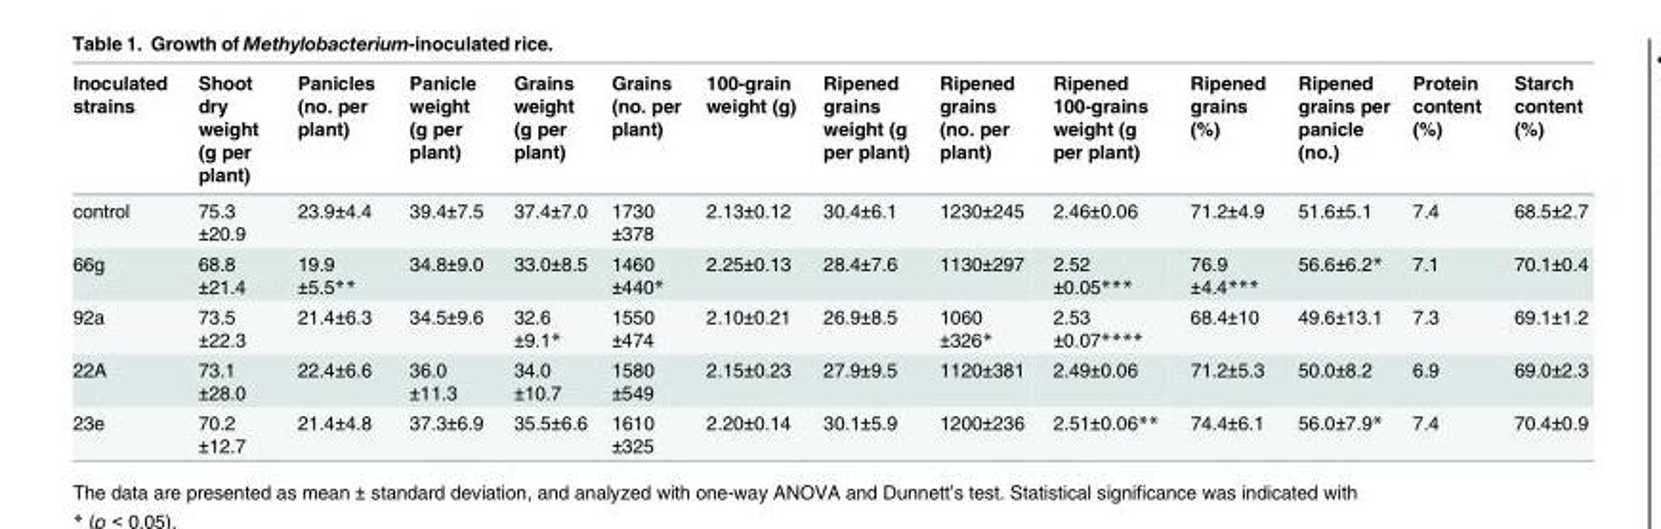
<table><thead><tr><td>Inoculated strains</td><td>Shoot dry weight (g per plant)</td><td>Panicles (no. per plant)</td><td>Panicle weight (g per plant)</td><td>Grains weight (g per plant)</td><td>Grains (no. per plant)</td><td>100-grain weight (g)</td><td>Ripened grains weight (g per plant)</td><td>Ripened grains (no. per plant)</td><td>Ripened 100-grains weight (g per plant)</td><td>Ripened grains (%)</td><td>Ripened grains per panicle (no.)</td><td>Protein content (%)</td><td>Starch content (%)</td></tr></thead><tbody><tr><td>control</td><td>75.3 ±20.9</td><td>23.9±4.4</td><td>39.4±7.5</td><td>37.4±7.0</td><td>1730 ±378</td><td>2.13±0.12</td><td>30.4±6.1</td><td>1230±245</td><td>2.46±0.06</td><td>71.2±4.9</td><td>51.6±5.1</td><td>7.4</td><td>68.5±2.7</td></tr><tr><td>66g</td><td>68.8 ±21.4</td><td>19.9 ±5.5**</td><td>34.8±9.0</td><td>33.0±8.5</td><td>1460 ±440*</td><td>2.25±0.13</td><td>28.4±7.6</td><td>1130±297</td><td>2.52 ±0.05***</td><td>76.9 ±4.4***</td><td>56.6±6.2*</td><td>7.1</td><td>70.1±0.4</td></tr><tr><td>92a</td><td>73.5 ±22.3</td><td>21.4±6.3</td><td>34.5±9.6</td><td>32.6 ±9.1*</td><td>1550 ±474</td><td>2.10±0.21</td><td>26.9±8.5</td><td>1060 ±326*</td><td>2.53 ±0.07****</td><td>68.4±10</td><td>49.6±13.1</td><td>7.3</td><td>69.1±1.2</td></tr><tr><td>22A</td><td>73.1 ±28.0</td><td>22.4±6.6</td><td>36.0 ±11.3</td><td>34.0 ±10.7</td><td>1580 ±549</td><td>2.15±0.23</td><td>27.9±9.5</td><td>1120±381</td><td>2.49±0.06</td><td>71.2±5.3</td><td>50.0±8.2</td><td>6.9</td><td>69.0±2.3</td></tr><tr><td>23e</td><td>70.2 ±12.7</td><td>21.4±4.8</td><td>37.3±6.9</td><td>35.5±6.6</td><td>1610 ±325</td><td>2.20±0.14</td><td>30.1±5.9</td><td>1200±236</td><td>2.51±0.06**</td><td>74.4±6.1</td><td>56.0±7.9*</td><td>7.4</td><td>70.4±0.9</td></tr></tbody></table>